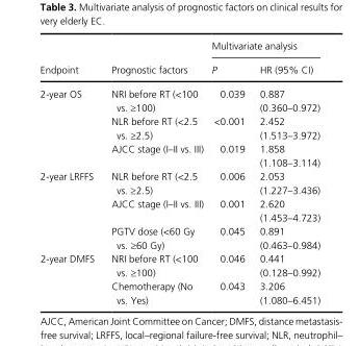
<table><thead><tr><td rowspan="2">Endpoint</td><td rowspan="2">Prognostic factors</td><td colspan="2">Multivariate analysis</td></tr><tr><td>P</td><td>HR (95% CI)</td></tr></thead><tbody><tr><td rowspan="3">2- year OS</td><td>NRI before RT (&lt;100 vs. ≥100)</td><td>0.039</td><td>0.887 (0.360–0.972)</td></tr><tr><td>NLR before RT (&lt;2.5 vs. ≥2.5)</td><td>&lt;0.001</td><td>2.452 (1.513–3.972)</td></tr><tr><td>AJCC stage (I–II vs. III)</td><td>0.019</td><td>1.858 (1.108–3.114)</td></tr><tr><td rowspan="3">2- year LRFFS</td><td>NLR before RT (&lt;2.5 vs. ≥2.5)</td><td>0.006</td><td>2.053 (1.227–3.436)</td></tr><tr><td>AJCC stage (I–II vs. III)</td><td>0.001</td><td>2.620 (1.453–4.723)</td></tr><tr><td>PGTV dose (&lt;60 Gy vs. ≥60 Gy)</td><td>0.045</td><td>0.891 (0.463–0.984)</td></tr><tr><td rowspan="2">2- year DMFS</td><td>NRI before RT (&lt;100 vs. ≥100)</td><td>0.046</td><td>0.441 (0.128–0.992)</td></tr><tr><td>Chemotherapy (No vs. Yes)</td><td>0.043</td><td>3.206 (1.080–6.451)</td></tr></tbody></table>